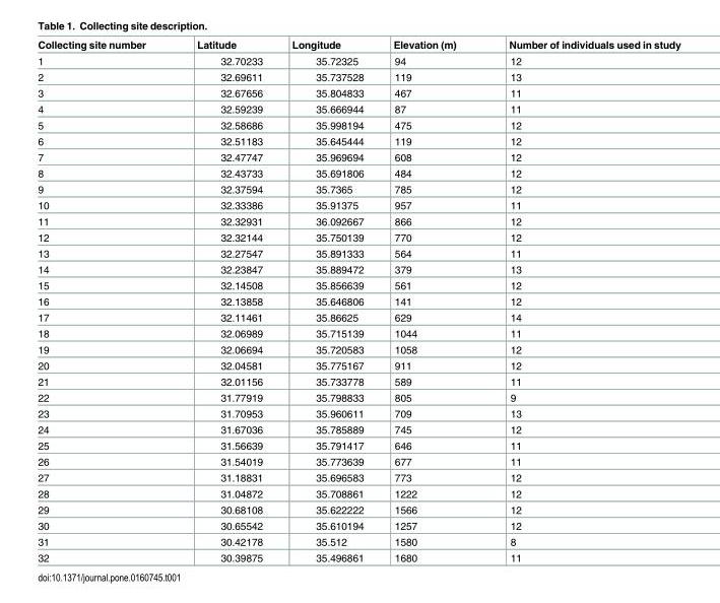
<table><thead><tr><td>Collecting site number</td><td>Latitude</td><td>Longitude</td><td>Elevation (m)</td><td>Number of individuals used in study</td></tr></thead><tbody><tr><td>1</td><td>32.70233</td><td>35.72325</td><td>94</td><td>12</td></tr><tr><td>2</td><td>32.69611</td><td>35.737528</td><td>119</td><td>13</td></tr><tr><td>3</td><td>32.67656</td><td>35.804833</td><td>467</td><td>11</td></tr><tr><td>4</td><td>32.59239</td><td>35.666944</td><td>87</td><td>11</td></tr><tr><td>5</td><td>32.58686</td><td>35.998194</td><td>475</td><td>12</td></tr><tr><td>6</td><td>32.51183</td><td>35.645444</td><td>119</td><td>12</td></tr><tr><td>7</td><td>32.47747</td><td>35.969694</td><td>608</td><td>12</td></tr><tr><td>8</td><td>32.43733</td><td>35.691806</td><td>484</td><td>12</td></tr><tr><td>9</td><td>32.37594</td><td>35.7365</td><td>785</td><td>12</td></tr><tr><td>10</td><td>32.33386</td><td>35.91375</td><td>957</td><td>11</td></tr><tr><td>11</td><td>32.32931</td><td>36.092667</td><td>866</td><td>12</td></tr><tr><td>12</td><td>32.32144</td><td>35.750139</td><td>770</td><td>12</td></tr><tr><td>13</td><td>32.27547</td><td>35.891333</td><td>564</td><td>11</td></tr><tr><td>14</td><td>32.23847</td><td>35.889472</td><td>379</td><td>13</td></tr><tr><td>15</td><td>32.14508</td><td>35.856639</td><td>561</td><td>12</td></tr><tr><td>16</td><td>32.13858</td><td>35.646806</td><td>141</td><td>12</td></tr><tr><td>17</td><td>32.11461</td><td>35.86625</td><td>629</td><td>14</td></tr><tr><td>18</td><td>32.06989</td><td>35.715139</td><td>1044</td><td>11</td></tr><tr><td>19</td><td>32.06694</td><td>35.720583</td><td>1058</td><td>12</td></tr><tr><td>20</td><td>32.04581</td><td>35.775167</td><td>911</td><td>12</td></tr><tr><td>21</td><td>32.01156</td><td>35.733778</td><td>589</td><td>11</td></tr><tr><td>22</td><td>31.77919</td><td>35.798833</td><td>805</td><td>9</td></tr><tr><td>23</td><td>31.70953</td><td>35.960611</td><td>709</td><td>13</td></tr><tr><td>24</td><td>31.67036</td><td>35.785889</td><td>745</td><td>12</td></tr><tr><td>25</td><td>31.56639</td><td>35.791417</td><td>646</td><td>11</td></tr><tr><td>26</td><td>31.54019</td><td>35.773639</td><td>677</td><td>11</td></tr><tr><td>27</td><td>31.18831</td><td>35.696583</td><td>773</td><td>12</td></tr><tr><td>28</td><td>31.04872</td><td>35.708861</td><td>1222</td><td>12</td></tr><tr><td>29</td><td>30.68108</td><td>35.622222</td><td>1566</td><td>12</td></tr><tr><td>30</td><td>30.65542</td><td>35.610194</td><td>1257</td><td>12</td></tr><tr><td>31</td><td>30.42178</td><td>35.512</td><td>1580</td><td>8</td></tr><tr><td>32</td><td>30.39875</td><td>35.496861</td><td>1680</td><td>11</td></tr></tbody></table>